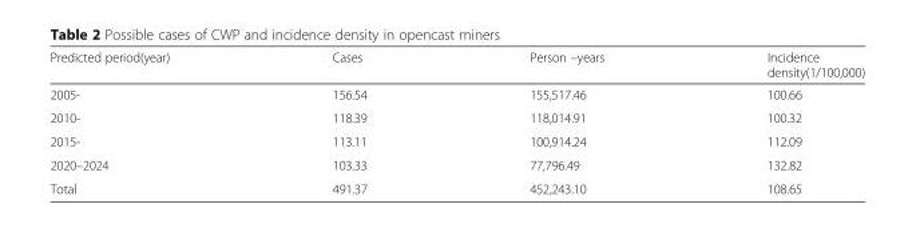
<table><thead><tr><td>Predicted period(year)</td><td>Cases</td><td>Person –years</td><td>Incidence density(1/100,000)</td></tr></thead><tbody><tr><td>2005-</td><td>156.54</td><td>155,517.46</td><td>100.66</td></tr><tr><td>2010-</td><td>118.39</td><td>118,014.91</td><td>100.32</td></tr><tr><td>2015-</td><td>113.11</td><td>100,914.24</td><td>112.09</td></tr><tr><td>2020–2024</td><td>103.33</td><td>77,796.49</td><td>132.82</td></tr><tr><td>Total</td><td>491.37</td><td>452,243.10</td><td>108.65</td></tr></tbody></table>